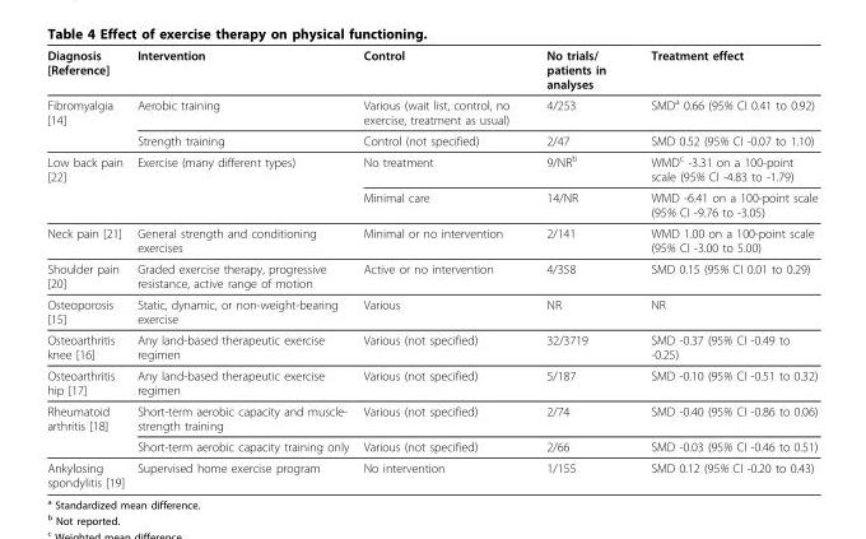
<table><thead><tr><td>Diagnosis [Reference]</td><td>Intervention</td><td>Control</td><td>No trials/ patients in analyses</td><td>Treatment effect</td></tr></thead><tbody><tr><td rowspan="2">Fibromyalgia [14]</td><td>Aerobic training</td><td>Various (wait list, control, no exercise, treatment as usual)</td><td>4/253</td><td>SMD<sup>a</sup> 0.66 (95% CI 0.41 to 0.92)</td></tr><tr><td>Strength training</td><td>Control (not specified)</td><td>2/47</td><td>SMD 0.52 (95% CI -0.07 to 1.10)</td></tr><tr><td rowspan="2">Low back pain [22]</td><td>Exercise (many different types)</td><td>No treatment</td><td>9/NR<sup>b</sup></td><td>WMD<sup>c</sup> -3.31 on a 100-point scale (95% CI -4.83 to -1.79)</td></tr><tr><td></td><td>Minimal care</td><td>14/NR</td><td>WMD -6.41 on a 100-point scale (95% CI -9.76 to -3.05)</td></tr><tr><td>Neck pain [21]</td><td>General strength and conditioning exercises</td><td>Minimal or no intervention</td><td>2/141</td><td>WMD 1.00 on a 100-point scale (95% CI -3.00 to 5.00)</td></tr><tr><td>Shoulder pain [20]</td><td>Graded exercise therapy, progressive resistance, active range of motion</td><td>Active or no intervention</td><td>4/358</td><td>SMD 0.15 (95% CI 0.01 to 0.29)</td></tr><tr><td>Osteoporosis [15]</td><td>Static, dynamic, or non-weight-bearing exercise</td><td>Various</td><td>NR</td><td>NR</td></tr><tr><td>Osteoarthritis knee [16]</td><td>Any land-based therapeutic exercise regimen</td><td>Various (not specified)</td><td>32/3719</td><td>SMD -0.37 (95% CI -0.49 to -0.25)</td></tr><tr><td>Osteoarthritis hip [17]</td><td>Any land-based therapeutic exercise regimen</td><td>Various (not specified)</td><td>5/187</td><td>SMD -0.10 (95% CI -0.51 to 0.32)</td></tr><tr><td rowspan="2">Rheumatoid arthritis [18]</td><td>Short-term aerobic capacity and muscle- strength training</td><td>Various (not specified)</td><td>2/74</td><td>SMD -0.40 (95% CI -0.86 to 0.06)</td></tr><tr><td>Short-term aerobic capacity training only</td><td>Various (not specified)</td><td>2/66</td><td>SMD -0.03 (95% CI -0.46 to 0.51)</td></tr><tr><td>Ankylosing spondylitis [19]</td><td>Supervised home exercise program</td><td>No intervention</td><td>1/155</td><td>SMD 0.12 (95% CI -0.20 to 0.43)</td></tr></tbody></table>